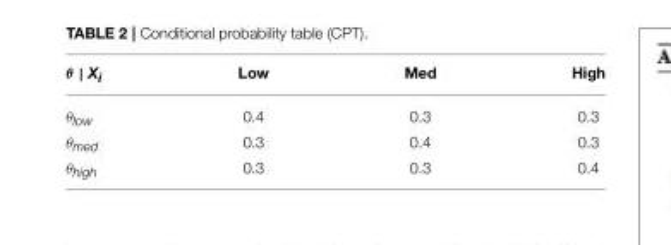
<table><thead><tr><td>θ | Xi</td><td>Low</td><td>Med</td><td>High</td></tr></thead><tbody><tr><td>θ<sub>low</sub></td><td>0.4</td><td>0.3</td><td>0.3</td></tr><tr><td>θ<sub>med</sub></td><td>0.3</td><td>0.4</td><td>0.3</td></tr><tr><td>θ<sub>high</sub></td><td>0.3</td><td>0.3</td><td>0.4</td></tr></tbody></table>